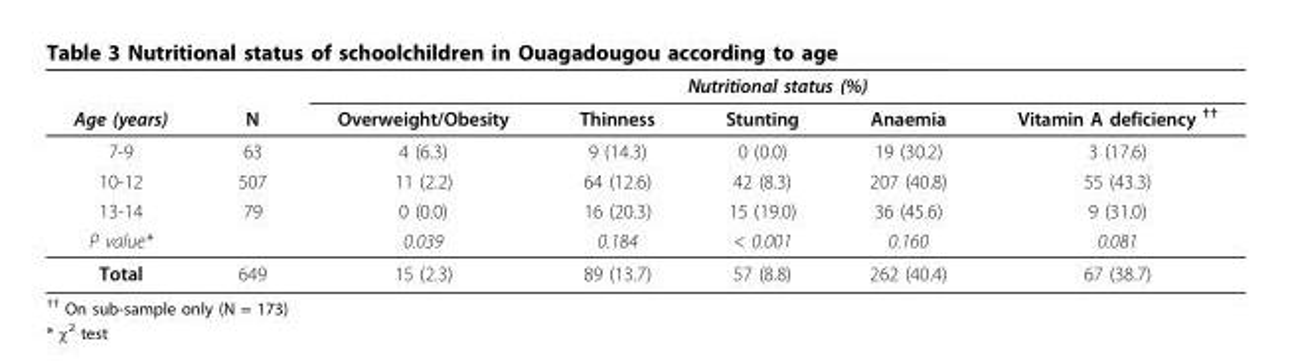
<table><thead><tr><td rowspan="2">Age (years)</td><td rowspan="2">N</td><td colspan="5">Nutritional status (%)</td></tr><tr><td>Overweight/Obesity</td><td>Thinness</td><td>Stunting</td><td>Anaemia</td><td>Vitamin A deficiency <sup>††</sup></td></tr></thead><tbody><tr><td>7-9</td><td>63</td><td>4 (6.3)</td><td>9 (14.3)</td><td>0 (0.0)</td><td>19 (30.2)</td><td>3 (17.6)</td></tr><tr><td>10-12</td><td>507</td><td>11 (2.2)</td><td>64 (12.6)</td><td>42 (8.3)</td><td>207 (40.8)</td><td>55 (43.3)</td></tr><tr><td>13-14</td><td>79</td><td>0 (0.0)</td><td>16 (20.3)</td><td>15 (19.0)</td><td>36 (45.6)</td><td>9 (31.0)</td></tr><tr><td>P value*</td><td></td><td>0.039</td><td>0.184</td><td>&lt; 0.001</td><td>0.160</td><td>0.081</td></tr><tr><td>Total</td><td>649</td><td>15 (2.3)</td><td>89 (13.7)</td><td>57 (8.8)</td><td>262 (40.4)</td><td>67 (38.7)</td></tr></tbody></table>